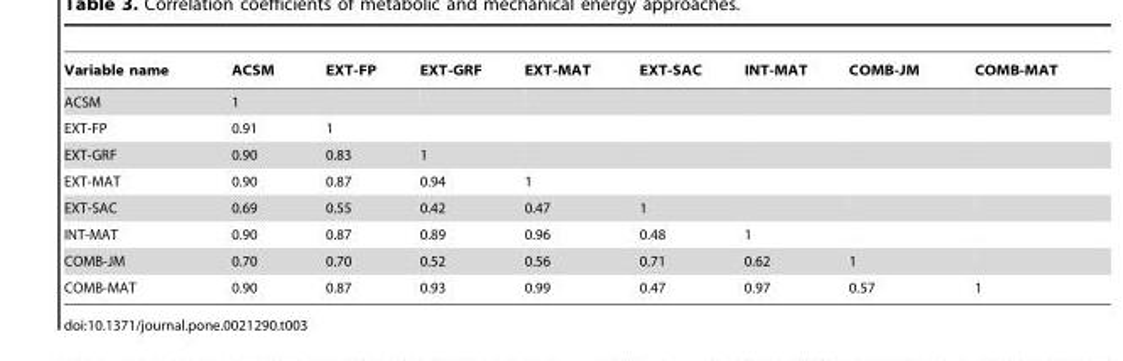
<table><thead><tr><td>Variable name</td><td>ACSM</td><td>EXT-FP</td><td>EXT-GRF</td><td>EXT-MAT</td><td>EXT-SAC</td><td>INT-MAT</td><td>COMB-JM</td><td>COMB-MAT</td></tr></thead><tbody><tr><td>ACSM</td><td>1</td><td></td><td></td><td></td><td></td><td></td><td></td><td></td></tr><tr><td>EXT-FP</td><td>0.91</td><td>1</td><td></td><td></td><td></td><td></td><td></td><td></td></tr><tr><td>EXT-GRF</td><td>0.90</td><td>0.83</td><td>1</td><td></td><td></td><td></td><td></td><td></td></tr><tr><td>EXT-MAT</td><td>0.90</td><td>0.87</td><td>0.94</td><td>1</td><td></td><td></td><td></td><td></td></tr><tr><td>EXT-SAC</td><td>0.69</td><td>0.55</td><td>0.42</td><td>0.47</td><td>1</td><td></td><td></td><td></td></tr><tr><td>INT-MAT</td><td>0.90</td><td>0.87</td><td>0.89</td><td>0.96</td><td>0.48</td><td>1</td><td></td><td></td></tr><tr><td>COMB-JM</td><td>0.70</td><td>0.70</td><td>0.52</td><td>0.56</td><td>0.71</td><td>0.62</td><td>1</td><td></td></tr><tr><td>COMB-MAT</td><td>0.90</td><td>0.87</td><td>0.93</td><td>0.99</td><td>0.47</td><td>0.97</td><td>0.57</td><td>1</td></tr></tbody></table>